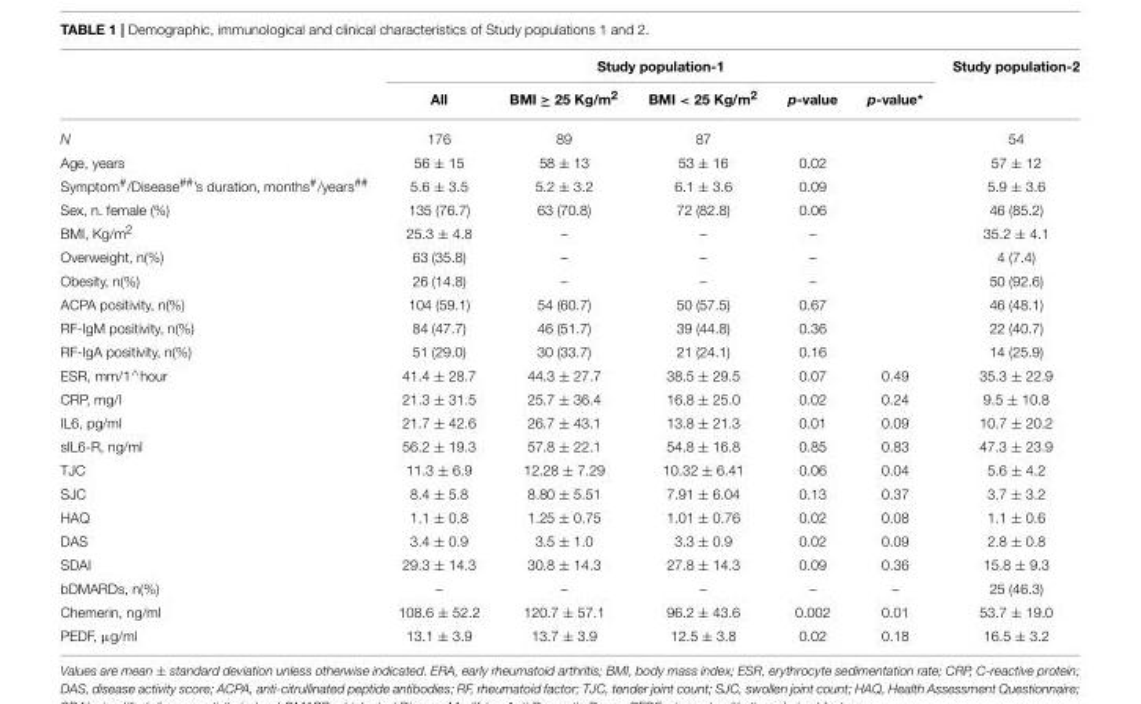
<table><thead><tr><td rowspan="2"></td><td colspan="5">Study population-1</td><td rowspan="2">Study population-2</td></tr><tr><td>All</td><td>BMI ≥ 25 Kg/m<sup>2</sup></td><td>BMI &lt; 25 Kg/m<sup>2</sup></td><td>p-value</td><td>p-value*</td></tr></thead><tbody><tr><td>N</td><td>176</td><td>89</td><td>87</td><td></td><td></td><td>54</td></tr><tr><td>Age, years</td><td>56 ± 15</td><td>58 ± 13</td><td>53 ± 16</td><td>0.02</td><td></td><td>57 ± 12</td></tr><tr><td>Symptom<sup>#</sup>/Disease<sup>##</sup>’s duration, months<sup>#</sup>/years<sup>##</sup></td><td>5.6 ± 3.5</td><td>5.2 ± 3.2</td><td>6.1 ± 3.6</td><td>0.09</td><td></td><td>5.9 ± 3.6</td></tr><tr><td>Sex, n. female (%)</td><td>135 (76.7)</td><td>63 (70.8)</td><td>72 (82.8)</td><td>0.06</td><td></td><td>46 (85.2)</td></tr><tr><td>BMI, Kg/m<sup>2</sup></td><td>25.3 ± 4.8</td><td>–</td><td>–</td><td>–</td><td></td><td>35.2 ± 4.1</td></tr><tr><td>Overweight, n(%)</td><td>63 (35.8)</td><td>–</td><td>–</td><td>–</td><td></td><td>4 (7.4)</td></tr><tr><td>Obesity, n(%)</td><td>26 (14.8)</td><td>–</td><td>–</td><td>–</td><td></td><td>50 (92.6)</td></tr><tr><td>ACPA positivity, n(%)</td><td>104 (59.1)</td><td>54 (60.7)</td><td>50 (57.5)</td><td>0.67</td><td></td><td>46 (48.1)</td></tr><tr><td>RF-IgM positivity, n(%)</td><td>84 (47.7)</td><td>46 (51.7)</td><td>39 (44.8)</td><td>0.36</td><td></td><td>22 (40.7)</td></tr><tr><td>RF-IgA positivity, n(%)</td><td>51 (29.0)</td><td>30 (33.7)</td><td>21 (24.1)</td><td>0.16</td><td></td><td>14 (25.9)</td></tr><tr><td>ESR, mm/1<sup>∧</sup>hour</td><td>41.4 ± 28.7</td><td>44.3 ± 27.7</td><td>38.5 ± 29.5</td><td>0.07</td><td>0.49</td><td>35.3 ± 22.9</td></tr><tr><td>CRP, mg/l</td><td>21.3 ± 31.5</td><td>25.7 ± 36.4</td><td>16.8 ± 25.0</td><td>0.02</td><td>0.24</td><td>9.5 ± 10.8</td></tr><tr><td>IL6, pg/ml</td><td>21.7 ± 42.6</td><td>26.7 ± 43.1</td><td>13.8 ± 21.3</td><td>0.01</td><td>0.09</td><td>10.7 ± 20.2</td></tr><tr><td>sIL6-R, ng/ml</td><td>56.2 ± 19.3</td><td>57.8 ± 22.1</td><td>54.8 ± 16.8</td><td>0.85</td><td>0.83</td><td>47.3 ± 23.9</td></tr><tr><td>TJC</td><td>11.3 ± 6.9</td><td>12.28 ± 7.29</td><td>10.32 ± 6.41</td><td>0.06</td><td>0.04</td><td>5.6 ± 4.2</td></tr><tr><td>SJC</td><td>8.4 ± 5.8</td><td>8.80 ± 5.51</td><td>7.91 ± 6.04</td><td>0.13</td><td>0.37</td><td>3.7 ± 3.2</td></tr><tr><td>HAQ</td><td>1.1 ± 0.8</td><td>1.25 ± 0.75</td><td>1.01 ± 0.76</td><td>0.02</td><td>0.08</td><td>1.1 ± 0.6</td></tr><tr><td>DAS</td><td>3.4 ± 0.9</td><td>3.5 ± 1.0</td><td>3.3 ± 0.9</td><td>0.02</td><td>0.09</td><td>2.8 ± 0.8</td></tr><tr><td>SDAI</td><td>29.3 ± 14.3</td><td>30.8 ± 14.3</td><td>27.8 ± 14.3</td><td>0.09</td><td>0.36</td><td>15.8 ± 9.3</td></tr><tr><td>bDMARDs, n(%)</td><td>–</td><td>–</td><td>–</td><td>–</td><td>–</td><td>25 (46.3)</td></tr><tr><td>Chemerin, ng/ml</td><td>108.6 ± 52.2</td><td>120.7 ± 57.1</td><td>96.2 ± 43.6</td><td>0.002</td><td>0.01</td><td>53.7 ± 19.0</td></tr><tr><td>PEDF, µg/ml</td><td>13.1 ± 3.9</td><td>13.7 ± 3.9</td><td>12.5 ± 3.8</td><td>0.02</td><td>0.18</td><td>16.5 ± 3.2</td></tr></tbody></table>